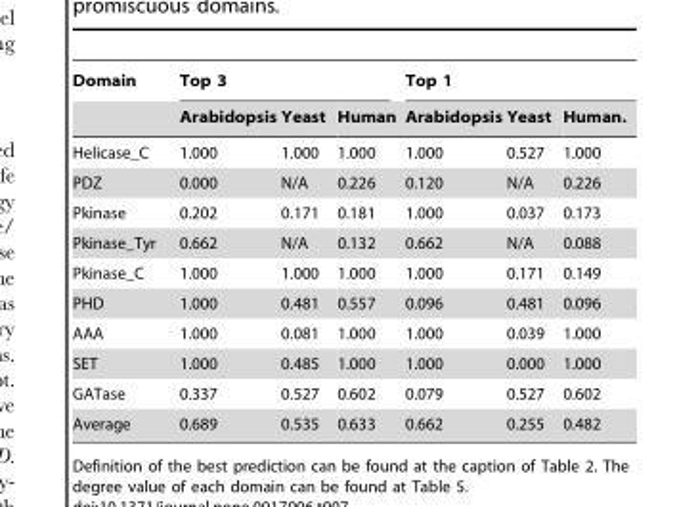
<table><thead><tr><td rowspan="2">Domain</td><td colspan="3">Top 3</td><td colspan="3">Top 1</td></tr><tr><td>Arabidopsis</td><td>Yeast</td><td>Human</td><td>Arabidopsis</td><td>Yeast</td><td>Human.</td></tr></thead><tbody><tr><td>Helicase_C</td><td>1.000</td><td>1.000</td><td>1.000</td><td>1.000</td><td>0.527</td><td>1.000</td></tr><tr><td>PDZ</td><td>0.000</td><td>N/A</td><td>0.226</td><td>0.120</td><td>N/A</td><td>0.226</td></tr><tr><td>Pkinase</td><td>0.202</td><td>0.171</td><td>0.181</td><td>1.000</td><td>0.037</td><td>0.173</td></tr><tr><td>Pkinase_Tyr</td><td>0.662</td><td>N/A</td><td>0.132</td><td>0.662</td><td>N/A</td><td>0.088</td></tr><tr><td>Pkinase_C</td><td>1.000</td><td>1.000</td><td>1.000</td><td>1.000</td><td>0.171</td><td>0.149</td></tr><tr><td>PHD</td><td>1.000</td><td>0.481</td><td>0.557</td><td>0.096</td><td>0.481</td><td>0.096</td></tr><tr><td>AAA</td><td>1.000</td><td>0.081</td><td>1.000</td><td>1.000</td><td>0.039</td><td>1.000</td></tr><tr><td>SET</td><td>1.000</td><td>0.485</td><td>1.000</td><td>1.000</td><td>0.000</td><td>1.000</td></tr><tr><td>GATase</td><td>0.337</td><td>0.527</td><td>0.602</td><td>0.079</td><td>0.527</td><td>0.602</td></tr><tr><td>Average</td><td>0.689</td><td>0.535</td><td>0.633</td><td>0.662</td><td>0.255</td><td>0.482</td></tr></tbody></table>